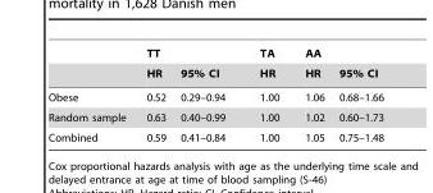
<table><thead><tr><td rowspan="2"></td><td rowspan="2">TT HR</td><td rowspan="2">95% CI</td><td rowspan="2">TA HR</td><td rowspan="2">AA HR</td><td rowspan="2">95% CI</td></tr><tr></tr></thead><tbody><tr><td>Obese</td><td>0.52</td><td>0.29–0.94</td><td>1.00</td><td>1.06</td><td>0.68–1.66</td></tr><tr><td>Random sample</td><td>0.63</td><td>0.40–0.99</td><td>1.00</td><td>1.02</td><td>0.60–1.73</td></tr><tr><td>Combined</td><td>0.59</td><td>0.41–0.84</td><td>1.00</td><td>1.05</td><td>0.75–1.48</td></tr></tbody></table>